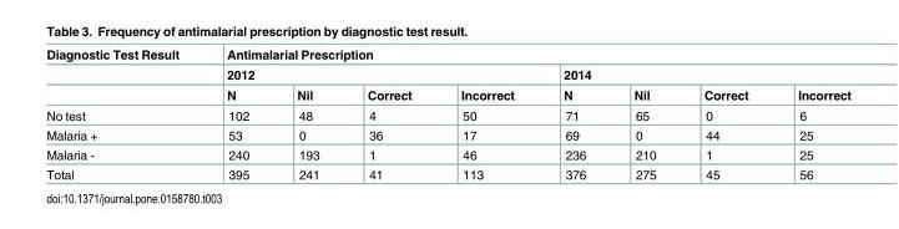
<table><thead><tr><td rowspan="3">Diagnostic Test Result</td><td colspan="8">Antimalarial Prescription</td></tr><tr><td colspan="4">2012</td><td colspan="4">2014</td></tr><tr><td>N</td><td>Nil</td><td>Correct</td><td>Incorrect</td><td>N</td><td>Nil</td><td>Correct</td><td>Incorrect</td></tr></thead><tbody><tr><td>No test</td><td>102</td><td>48</td><td>4</td><td>50</td><td>71</td><td>65</td><td>0</td><td>6</td></tr><tr><td>Malaria +</td><td>53</td><td>0</td><td>36</td><td>17</td><td>69</td><td>0</td><td>44</td><td>25</td></tr><tr><td>Malaria -</td><td>240</td><td>193</td><td>1</td><td>46</td><td>236</td><td>210</td><td>1</td><td>25</td></tr><tr><td>Total</td><td>395</td><td>241</td><td>41</td><td>113</td><td>376</td><td>275</td><td>45</td><td>56</td></tr></tbody></table>